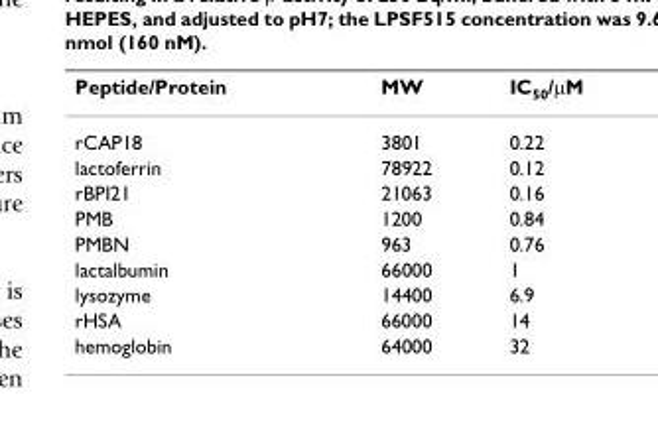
<table><thead><tr><td>Peptide/Protein</td><td>MW</td><td>IC<sub>50</sub>/µM</td></tr></thead><tbody><tr><td>rCAP18</td><td>3801</td><td>0.22</td></tr><tr><td>lactoferrin</td><td>78922</td><td>0.12</td></tr><tr><td>rBPI21</td><td>21063</td><td>0.16</td></tr><tr><td>PMB</td><td>1200</td><td>0.84</td></tr><tr><td>PMBN</td><td>963</td><td>0.76</td></tr><tr><td>lactalbumin</td><td>66000</td><td>1</td></tr><tr><td>lysozyme</td><td>14400</td><td>6.9</td></tr><tr><td>rHSA</td><td>66000</td><td>14</td></tr><tr><td>hemoglobin</td><td>64000</td><td>32</td></tr></tbody></table>